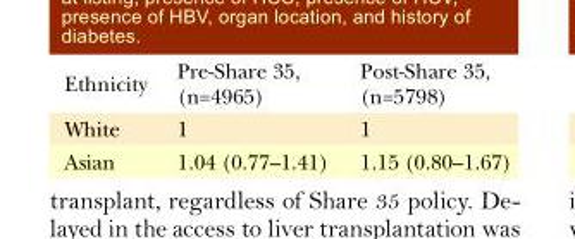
<table><thead><tr><td>Ethnicity</td><td>Pre-Share 35, (n=4965)</td><td>Post-Share 35, (n=5798)</td></tr></thead><tbody><tr><td>White</td><td>1</td><td>1</td></tr><tr><td>Asian</td><td>1.04 (0.77–1.41)</td><td>1.15 (0.80–1.67)</td></tr></tbody></table>